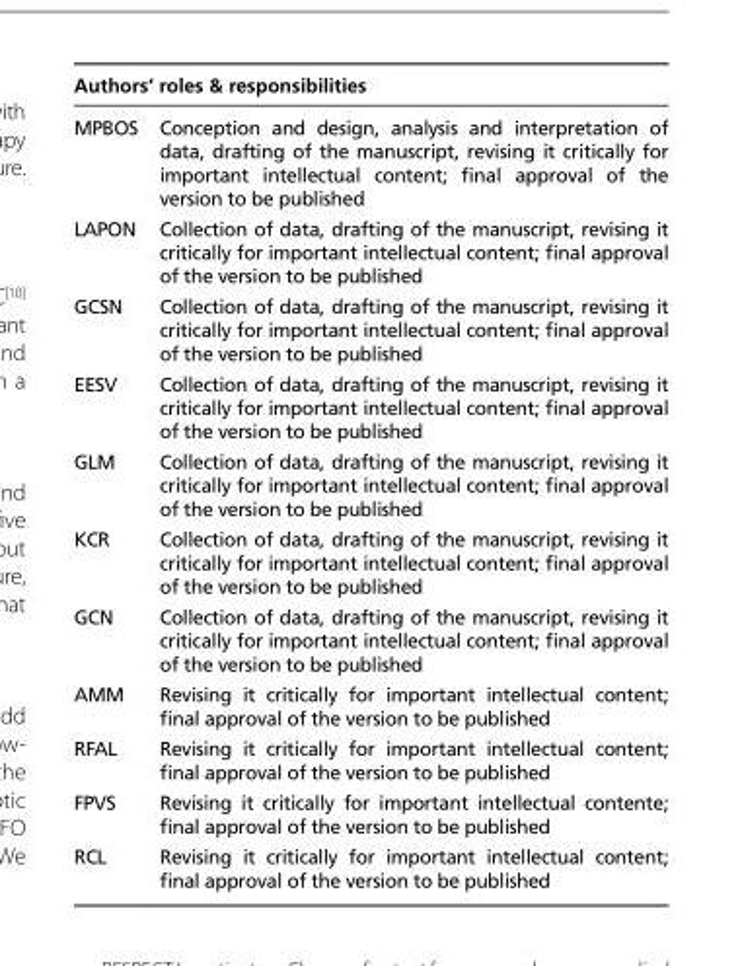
<table><thead><tr><td colspan="2">Authors’ roles &amp; responsibilities</td></tr><tr><td>MPBOS</td><td>Conception and design, analysis and interpretation of data, drafting of the manuscript, revising it critically for important intellectual content; final approval of the version to be published</td></tr></thead><tbody><tr><td>LAPON</td><td>Collection of data, drafting of the manuscript, revising it critically for important intellectual content; final approval of the version to be published</td></tr><tr><td>GCSN</td><td>Collection of data, drafting of the manuscript, revising it critically for important intellectual content; final approval of the version to be published</td></tr><tr><td>EESV</td><td>Collection of data, drafting of the manuscript, revising it critically for important intellectual content; final approval of the version to be published</td></tr><tr><td>GLM</td><td>Collection of data, drafting of the manuscript, revising it critically for important intellectual content; final approval of the version to be published</td></tr><tr><td>KCR</td><td>Collection of data, drafting of the manuscript, revising it critically for important intellectual content; final approval of the version to be published</td></tr><tr><td>GCN</td><td>Collection of data, drafting of the manuscript, revising it critically for important intellectual content; final approval of the version to be published</td></tr><tr><td>AMM</td><td>Revising it critically for important intellectual content; final approval of the version to be published</td></tr><tr><td>RFAL</td><td>Revising it critically for important intellectual content; final approval of the version to be published</td></tr><tr><td>FPVS</td><td>Revising it critically for important intellectual contente; final approval of the version to be published</td></tr><tr><td>RCL</td><td>Revising it critically for important intellectual content; final approval of the version to be published</td></tr></tbody></table>